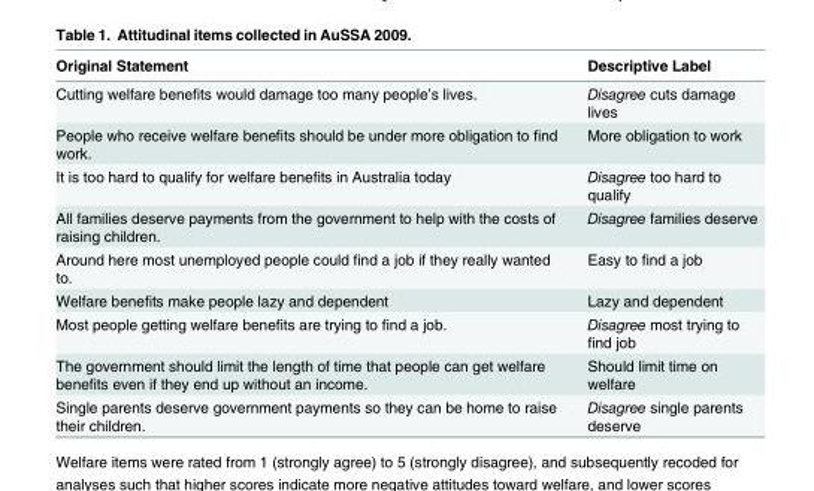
<table><thead><tr><td>Original Statement</td><td>Descriptive Label</td></tr></thead><tbody><tr><td>Cutting welfare benefits would damage too many people’s lives.</td><td>Disagree cuts damage lives</td></tr><tr><td>People who receive welfare benefits should be under more obligation to find work.</td><td>More obligation to work</td></tr><tr><td>It is too hard to qualify for welfare benefits in Australia today</td><td>Disagree too hard to qualify</td></tr><tr><td>All families deserve payments from the government to help with the costs of raising children.</td><td>Disagree families deserve</td></tr><tr><td>Around here most unemployed people could find a job if they really wanted to.</td><td>Easy to find a job</td></tr><tr><td>Welfare benefits make people lazy and dependent</td><td>Lazy and dependent</td></tr><tr><td>Most people getting welfare benefits are trying to find a job.</td><td>Disagree most trying to find job</td></tr><tr><td>The government should limit the length of time that people can get welfare benefits even if they end up without an income.</td><td>Should limit time on welfare</td></tr><tr><td>Single parents deserve government payments so they can be home to raise their children.</td><td>Disagree single parents deserve</td></tr></tbody></table>